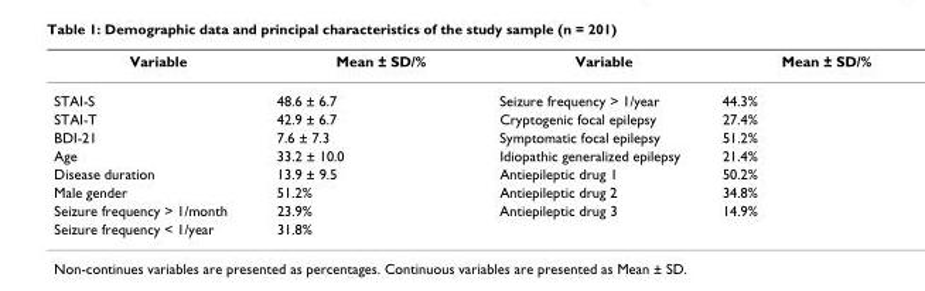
<table><thead><tr><td>Variable</td><td>Mean ± SD/%</td><td>Variable</td><td>Mean ± SD/%</td></tr></thead><tbody><tr><td>STAI-S</td><td>48.6 ± 6.7</td><td>Seizure frequency &gt; 1/year</td><td>44.3%</td></tr><tr><td>STAI-T</td><td>42.9 ± 6.7</td><td>Cryptogenic focal epilepsy</td><td>27.4%</td></tr><tr><td>BDI-21</td><td>7.6 ± 7.3</td><td>Symptomatic focal epilepsy</td><td>51.2%</td></tr><tr><td>Age</td><td>33.2 ± 10.0</td><td>Idiopathic generalized epilepsy</td><td>21.4%</td></tr><tr><td>Disease duration</td><td>13.9 ± 9.5</td><td>Antiepileptic drug 1</td><td>50.2%</td></tr><tr><td>Male gender</td><td>51.2%</td><td>Antiepileptic drug 2</td><td>34.8%</td></tr><tr><td>Seizure frequency &gt; 1/month</td><td>23.9%</td><td>Antiepileptic drug 3</td><td>14.9%</td></tr><tr><td>Seizure frequency &lt; 1/year</td><td>31.8%</td><td></td><td></td></tr></tbody></table>